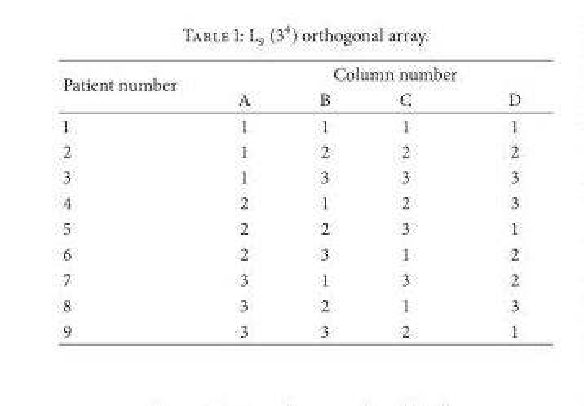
<table><thead><tr><td rowspan="2">Patient number</td><td colspan="4">Column number</td></tr><tr><td>A</td><td>B</td><td>C</td><td>D</td></tr></thead><tbody><tr><td>1</td><td>1</td><td>1</td><td>1</td><td>1</td></tr><tr><td>2</td><td>1</td><td>2</td><td>2</td><td>2</td></tr><tr><td>3</td><td>1</td><td>3</td><td>3</td><td>3</td></tr><tr><td>4</td><td>2</td><td>1</td><td>2</td><td>3</td></tr><tr><td>5</td><td>2</td><td>2</td><td>3</td><td>1</td></tr><tr><td>6</td><td>2</td><td>3</td><td>1</td><td>2</td></tr><tr><td>7</td><td>3</td><td>1</td><td>3</td><td>2</td></tr><tr><td>8</td><td>3</td><td>2</td><td>1</td><td>3</td></tr><tr><td>9</td><td>3</td><td>3</td><td>2</td><td>1</td></tr></tbody></table>